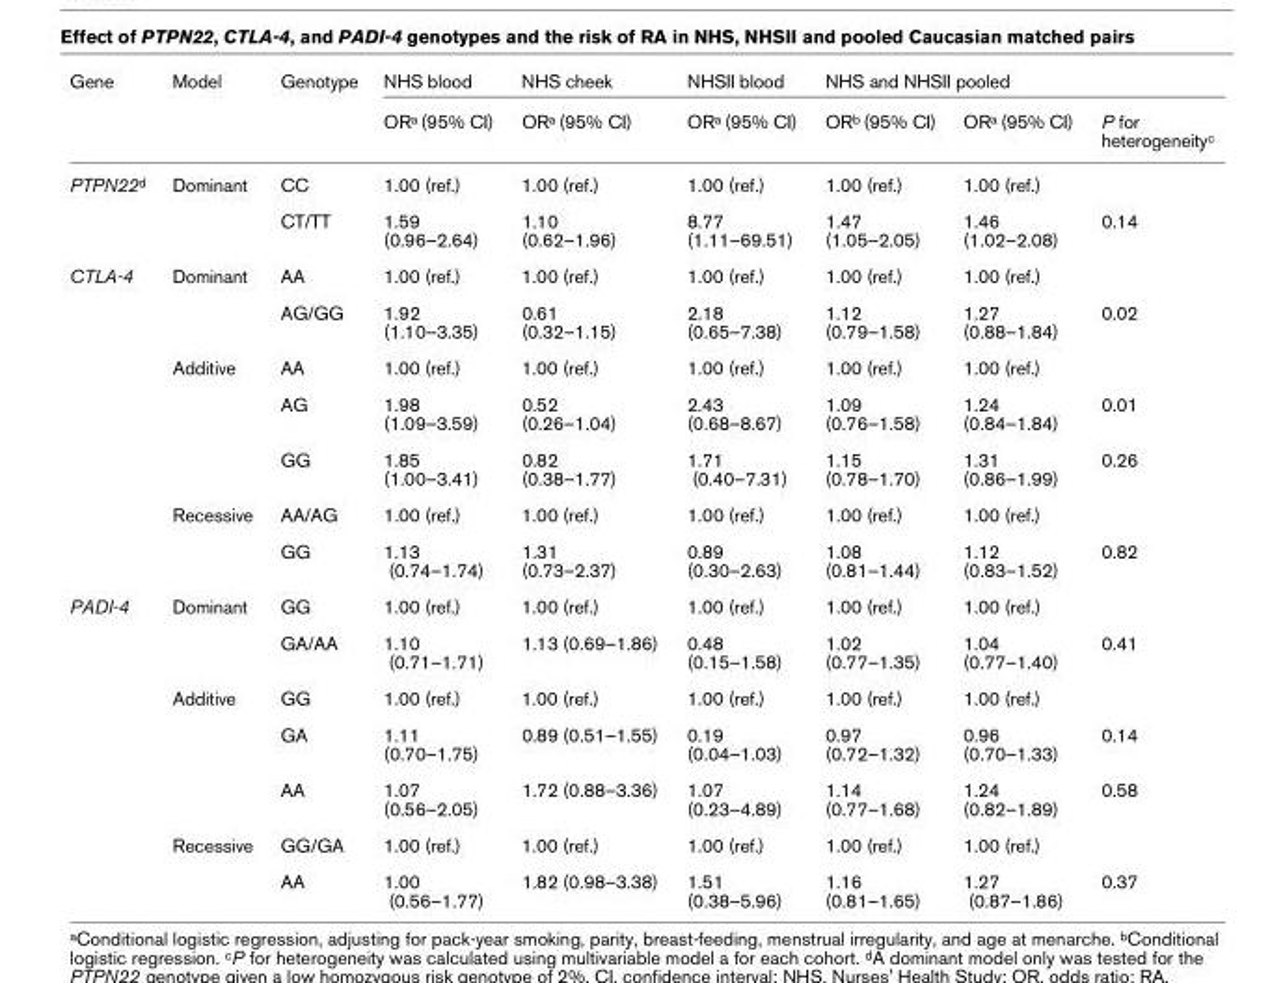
<table><thead><tr><td rowspan="2">Gene</td><td rowspan="2">Model</td><td rowspan="2">Genotype</td><td rowspan="2">NHS blood OR<sup>a</sup> (95% CI)</td><td rowspan="2">NHS cheek OR<sup>a</sup> (95% CI)</td><td rowspan="2">NHSII blood OR<sup>a</sup> (95% CI)</td><td colspan="3">NHS and NHSII pooled</td></tr><tr><td>OR<sup>b</sup> (95% CI)</td><td>OR<sup>a</sup> (95% CI)</td><td>P for heterogeneity<sup>c</sup></td></tr></thead><tbody><tr><td rowspan="2">PTPN22<sup>d</sup></td><td>Dominant</td><td>CC</td><td>1.00 (ref.)</td><td>1.00 (ref.)</td><td>1.00 (ref.)</td><td>1.00 (ref.)</td><td>1.00 (ref.)</td><td></td></tr><tr><td></td><td>CT/TT</td><td>1.59 (0.96–2.64)</td><td>1.10 (0.62–1.96)</td><td>8.77 (1.11–69.51)</td><td>1.47 (1.05–2.05)</td><td>1.46 (1.02–2.08)</td><td>0.14</td></tr><tr><td rowspan="7">CTLA-4</td><td>Dominant</td><td>AA</td><td>1.00 (ref.)</td><td>1.00 (ref.)</td><td>1.00 (ref.)</td><td>1.00 (ref.)</td><td>1.00 (ref.)</td><td></td></tr><tr><td></td><td>AG/GG</td><td>1.92 (1.10–3.35)</td><td>0.61 (0.32–1.15)</td><td>2.18 (0.65–7.38)</td><td>1.12 (0.79–1.58)</td><td>1.27 (0.88–1.84)</td><td>0.02</td></tr><tr><td>Additive</td><td>AA</td><td>1.00 (ref.)</td><td>1.00 (ref.)</td><td>1.00 (ref.)</td><td>1.00 (ref.)</td><td>1.00 (ref.)</td><td></td></tr><tr><td></td><td>AG</td><td>1.98 (1.09–3.59)</td><td>0.52 (0.26–1.04)</td><td>2.43 (0.68–8.67)</td><td>1.09 (0.76–1.58)</td><td>1.24 (0.84–1.84)</td><td>0.01</td></tr><tr><td></td><td>GG</td><td>1.85 (1.00–3.41)</td><td>0.82 (0.38–1.77)</td><td>1.71 (0.40–7.31)</td><td>1.15 (0.78–1.70)</td><td>1.31 (0.86–1.99)</td><td>0.26</td></tr><tr><td>Recessive</td><td>AA/AG</td><td>1.00 (ref.)</td><td>1.00 (ref.)</td><td>1.00 (ref.)</td><td>1.00 (ref.)</td><td>1.00 (ref.)</td><td></td></tr><tr><td></td><td>GG</td><td>1.13 (0.74–1.74)</td><td>1.31 (0.73–2.37)</td><td>0.89 (0.30–2.63)</td><td>1.08 (0.81–1.44)</td><td>1.12 (0.83–1.52)</td><td>0.82</td></tr><tr><td rowspan="7">PADI-4</td><td>Dominant</td><td>GG</td><td>1.00 (ref.)</td><td>1.00 (ref.)</td><td>1.00 (ref.)</td><td>1.00 (ref.)</td><td>1.00 (ref.)</td><td></td></tr><tr><td></td><td>GA/AA</td><td>1.10 (0.71–1.71)</td><td>1.13 (0.69–1.86)</td><td>0.48 (0.15–1.58)</td><td>1.02 (0.77–1.35)</td><td>1.04 (0.77–1.40)</td><td>0.41</td></tr><tr><td>Additive</td><td>GG</td><td>1.00 (ref.)</td><td>1.00 (ref.)</td><td>1.00 (ref.)</td><td>1.00 (ref.)</td><td>1.00 (ref.)</td><td></td></tr><tr><td></td><td>GA</td><td>1.11 (0.70–1.75)</td><td>0.89 (0.51–1.55)</td><td>0.19 (0.04–1.03)</td><td>0.97 (0.72–1.32)</td><td>0.96 (0.70–1.33)</td><td>0.14</td></tr><tr><td></td><td>AA</td><td>1.07 (0.56–2.05)</td><td>1.72 (0.88–3.36)</td><td>1.07 (0.23–4.89)</td><td>1.14 (0.77–1.68)</td><td>1.24 (0.82–1.89)</td><td>0.58</td></tr><tr><td>Recessive</td><td>GG/GA</td><td>1.00 (ref.)</td><td>1.00 (ref.)</td><td>1.00 (ref.)</td><td>1.00 (ref.)</td><td>1.00 (ref.)</td><td></td></tr><tr><td></td><td>AA</td><td>1.00 (0.56–1.77)</td><td>1.82 (0.98–3.38)</td><td>1.51 (0.38–5.96)</td><td>1.16 (0.81–1.65)</td><td>1.27 (0.87–1.86)</td><td>0.37</td></tr></tbody></table>